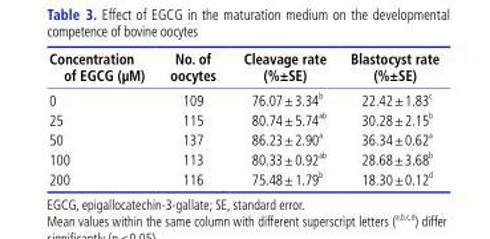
<table><thead><tr><td>Concentration of EGCG (μM)</td><td>No. of oocytes</td><td>Cleavage rate (%±SE)</td><td>Blastocyst rate (%±SE)</td></tr></thead><tbody><tr><td>0</td><td>109</td><td>76.07±3.34 <sup>b</sup></td><td>22.42±1.83 <sup>c</sup></td></tr><tr><td>25</td><td>115</td><td>80.74±5.74 <sup>ab</sup></td><td>30.28±2.15 <sup>b</sup></td></tr><tr><td>50</td><td>137</td><td>86.23±2.90 <sup>a</sup></td><td>36.34±0.62 <sup>a</sup></td></tr><tr><td>100</td><td>113</td><td>80.33±0.92 <sup>ab</sup></td><td>28.68±3.68 <sup>b</sup></td></tr><tr><td>200</td><td>116</td><td>75.48±1.79 <sup>b</sup></td><td>18.30±0.12 <sup>d</sup></td></tr></tbody></table>